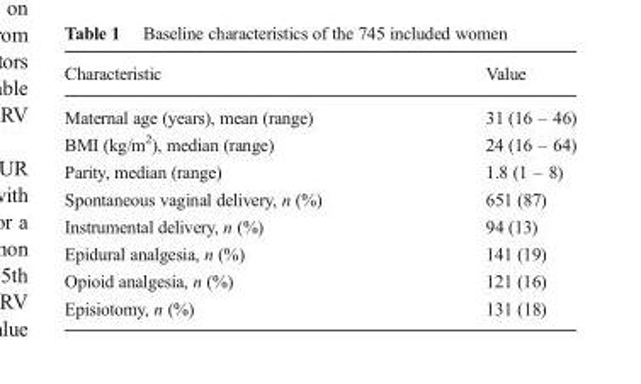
<table><thead><tr><td>Characteristic</td><td>Value</td></tr></thead><tbody><tr><td>Maternal age (years), mean (range)</td><td>31 (16 – 46)</td></tr><tr><td>BMI (kg/m<sup>2</sup>), median (range)</td><td>24 (16 – 64)</td></tr><tr><td>Parity, median (range)</td><td>1.8 (1 – 8)</td></tr><tr><td>Spontaneous vaginal delivery, n (%)</td><td>651 (87)</td></tr><tr><td>Instrumental delivery, n (%)</td><td>94 (13)</td></tr><tr><td>Epidural analgesia, n (%)</td><td>141 (19)</td></tr><tr><td>Opioid analgesia, n (%)</td><td>121 (16)</td></tr><tr><td>Episiotomy, n (%)</td><td>131 (18)</td></tr></tbody></table>